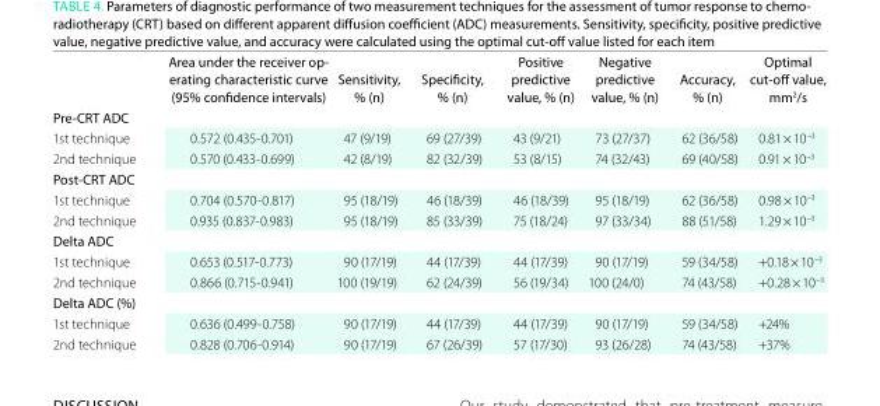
<table><thead><tr><td></td><td>area under the receiver op- erating characteristic curve (95% confidence intervals)</td><td>sensitivity, % (n)</td><td>specificity, % (n)</td><td>Positive predictive value, % (n)</td><td>negative predictive value, % (n)</td><td>accuracy, % (n)</td><td>optimal cut-off value, mm<sup>2</sup>/s</td></tr></thead><tbody><tr><td colspan="8">Pre-CRt adC</td></tr><tr><td>1st technique</td><td>0.572 (0.435-0.701)</td><td>47 (9/19)</td><td>69 (27/39)</td><td>43 (9/21)</td><td>73 (27/37)</td><td>62 (36/58)</td><td>0.81 × 10<sup>−3</sup></td></tr><tr><td>2nd technique</td><td>0.570 (0.433-0.699)</td><td>42 (8/19)</td><td>82 (32/39)</td><td>53 (8/15)</td><td>74 (32/43)</td><td>69 (40/58)</td><td>0.91 × 10<sup>−3</sup></td></tr><tr><td colspan="8">Post-CRt adC</td></tr><tr><td>1st technique</td><td>0.704 (0.570-0.817)</td><td>95 (18/19)</td><td>46 (18/39)</td><td>46 (18/39)</td><td>95 (18/19)</td><td>62 (36/58)</td><td>0.98 × 10<sup>−3</sup></td></tr><tr><td>2nd technique</td><td>0.935 (0.837-0.983)</td><td>95 (18/19)</td><td>85 (33/39)</td><td>75 (18/24)</td><td>97 (33/34)</td><td>88 (51/58)</td><td>1.29 × 10<sup>−3</sup></td></tr><tr><td colspan="8">delta adC</td></tr><tr><td>1st technique</td><td>0.653 (0.517-0.773)</td><td>90 (17/19)</td><td>44 (17/39)</td><td>44 (17/39)</td><td>90 (17/19)</td><td>59 (34/58)</td><td>+0.18 × 10<sup>−3</sup></td></tr><tr><td>2nd technique</td><td>0.866 (0.715-0.941)</td><td>100 (19/19)</td><td>62 (24/39)</td><td>56 (19/34)</td><td>100 (24/0)</td><td>74 (43/58)</td><td>+0.28 × 10<sup>−3</sup></td></tr><tr><td colspan="8">delta adC (%)</td></tr><tr><td>1st technique</td><td>0.636 (0.499-0.758)</td><td>90 (17/19)</td><td>44 (17/39)</td><td>44 (17/39)</td><td>90 (17/19)</td><td>59 (34/58)</td><td>+24%</td></tr><tr><td>2nd technique</td><td>0.828 (0.706-0.914)</td><td>90 (17/19)</td><td>67 (26/39)</td><td>57 (17/30)</td><td>93 (26/28)</td><td>74 (43/58)</td><td>+37%</td></tr></tbody></table>